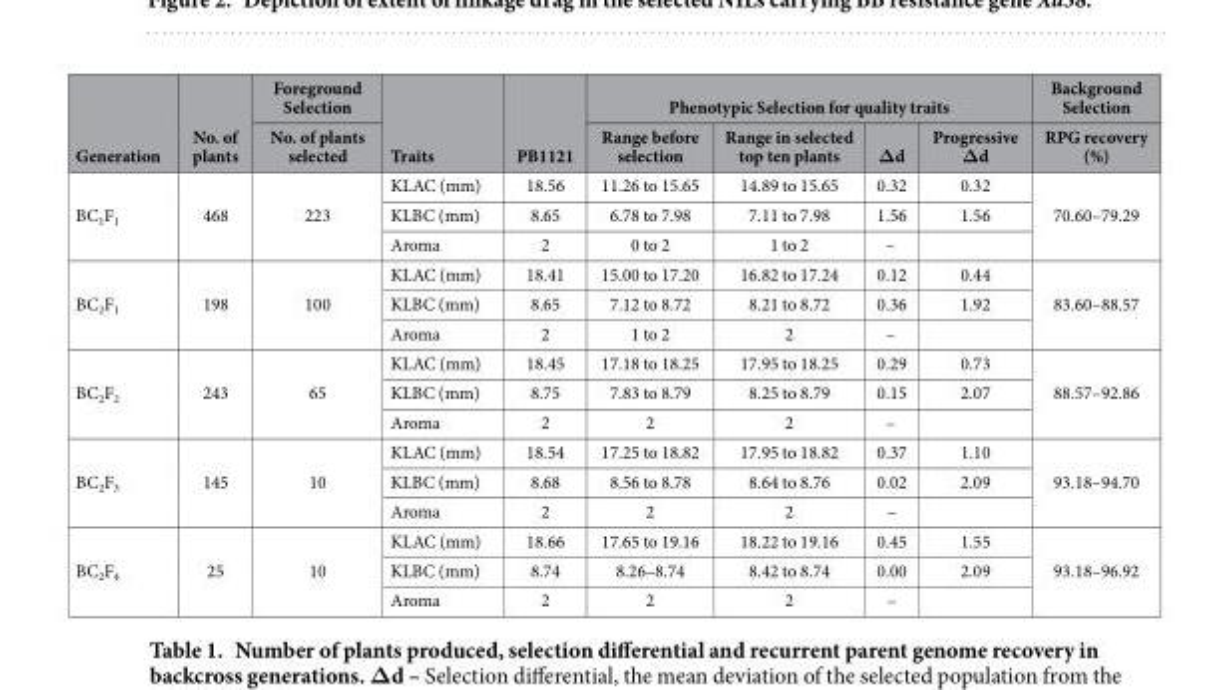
<table><thead><tr><td rowspan="2">Generation</td><td rowspan="2">No. of plants</td><td rowspan="2">Foreground Selection No. of plants selected</td><td rowspan="2">Traits</td><td rowspan="2">PB1121</td><td colspan="4">Phenotypic Selection for quality traits</td><td rowspan="2">Background Selection RPG recovery (%)</td></tr><tr><td>Range before selection</td><td>Range in selected top ten plants</td><td>Δd</td><td>Progressive Δd</td></tr></thead><tbody><tr><td rowspan="3">BC<sub>1</sub>F<sub>1</sub></td><td rowspan="3">468</td><td rowspan="3">223</td><td>KLAC (mm)</td><td>18.56</td><td>11.26 to 15.65</td><td>14.89 to 15.65</td><td>0.32</td><td>0.32</td><td rowspan="3">70.60–79.29</td></tr><tr><td>KLBC (mm)</td><td>8.65</td><td>6.78 to 7.98</td><td>7.11 to 7.98</td><td>1.56</td><td>1.56</td></tr><tr><td>Aroma</td><td>2</td><td>0 to 2</td><td>1 to 2</td><td>–</td><td></td></tr><tr><td rowspan="3">BC<sub>2</sub>F<sub>1</sub></td><td rowspan="3">198</td><td rowspan="3">100</td><td>KLAC (mm)</td><td>18.41</td><td>15.00 to 17.20</td><td>16.82 to 17.24</td><td>0.12</td><td>0.44</td><td rowspan="3">83.60–88.57</td></tr><tr><td>KLBC (mm)</td><td>8.65</td><td>7.12 to 8.72</td><td>8.21 to 8.72</td><td>0.36</td><td>1.92</td></tr><tr><td>Aroma</td><td>2</td><td>1 to 2</td><td>2</td><td>–</td><td></td></tr><tr><td rowspan="3">BC<sub>2</sub>F<sub>2</sub></td><td rowspan="3">243</td><td rowspan="3">65</td><td>KLAC (mm)</td><td>18.45</td><td>17.18 to 18.25</td><td>17.95 to 18.25</td><td>0.29</td><td>0.73</td><td rowspan="3">88.57–92.86</td></tr><tr><td>KLBC (mm)</td><td>8.75</td><td>7.83 to 8.79</td><td>8.25 to 8.79</td><td>0.15</td><td>2.07</td></tr><tr><td>Aroma</td><td>2</td><td>2</td><td>2</td><td>–</td><td></td></tr><tr><td rowspan="3">BC<sub>2</sub>F<sub>3</sub></td><td rowspan="3">145</td><td rowspan="3">10</td><td>KLAC (mm)</td><td>18.54</td><td>17.25 to 18.82</td><td>17.95 to 18.82</td><td>0.37</td><td>1.10</td><td rowspan="3">93.18–94.70</td></tr><tr><td>KLBC (mm)</td><td>8.68</td><td>8.56 to 8.78</td><td>8.64 to 8.76</td><td>0.02</td><td>2.09</td></tr><tr><td>Aroma</td><td>2</td><td>2</td><td>2</td><td>–</td><td></td></tr><tr><td rowspan="3">BC<sub>2</sub>F<sub>4</sub></td><td rowspan="3">25</td><td rowspan="3">10</td><td>KLAC (mm)</td><td>18.66</td><td>17.65 to 19.16</td><td>18.22 to 19.16</td><td>0.45</td><td>1.55</td><td rowspan="3">93.18–96.92</td></tr><tr><td>KLBC (mm)</td><td>8.74</td><td>8.26–8.74</td><td>8.42 to 8.74</td><td>0.00</td><td>2.09</td></tr><tr><td>Aroma</td><td>2</td><td>2</td><td>2</td><td>–</td><td></td></tr></tbody></table>